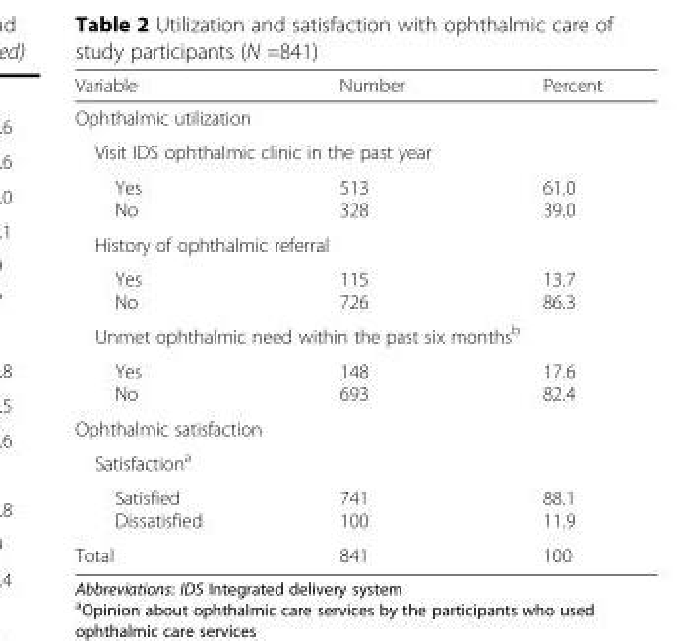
<table><thead><tr><td>Variable</td><td>Number</td><td>Percent</td></tr></thead><tbody><tr><td colspan="3">Ophthalmic utilization</td></tr><tr><td colspan="3">Visit IDS ophthalmic clinic in the past year</td></tr><tr><td>Yes No</td><td>513 328</td><td>61.0 39.0</td></tr><tr><td colspan="3">History of ophthalmic referral</td></tr><tr><td>Yes No</td><td>115 726</td><td>13.7 86.3</td></tr><tr><td colspan="3">Unmet ophthalmic need within the past six months<sup>b</sup></td></tr><tr><td>Yes No</td><td>148 693</td><td>17.6 82.4</td></tr><tr><td colspan="3">Ophthalmic satisfaction</td></tr><tr><td colspan="3">Satisfaction<sup>a</sup></td></tr><tr><td>Satisfied Dissatisfied</td><td>741 100</td><td>88.1 11.9</td></tr><tr><td>Total</td><td>841</td><td>100</td></tr></tbody></table>